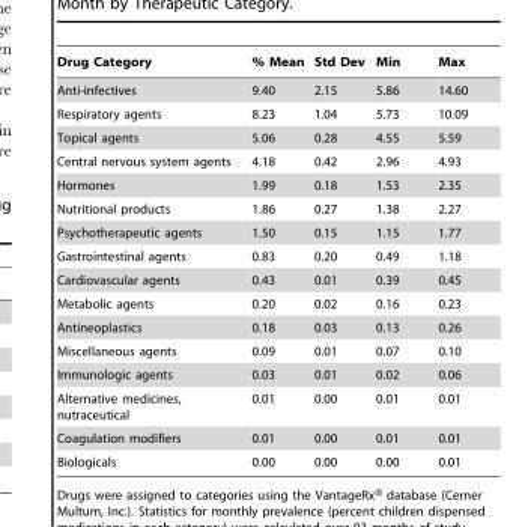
<table><thead><tr><td>Drug Category</td><td>% Mean</td><td>Std Dev</td><td>Min</td><td>Max</td></tr></thead><tbody><tr><td>Anti-infectives</td><td>9.40</td><td>2.15</td><td>5.86</td><td>14.60</td></tr><tr><td>Respiratory agents</td><td>8.23</td><td>1.04</td><td>5.73</td><td>10.09</td></tr><tr><td>Topical agents</td><td>5.06</td><td>0.28</td><td>4.55</td><td>5.59</td></tr><tr><td>Central nervous system agents</td><td>4.18</td><td>0.42</td><td>2.96</td><td>4.93</td></tr><tr><td>Hormones</td><td>1.99</td><td>0.18</td><td>1.53</td><td>2.35</td></tr><tr><td>Nutritional products</td><td>1.86</td><td>0.27</td><td>1.38</td><td>2.27</td></tr><tr><td>Psychotherapeutic agents</td><td>1.50</td><td>0.15</td><td>1.15</td><td>1.77</td></tr><tr><td>Gastrointestinal agents</td><td>0.83</td><td>0.20</td><td>0.49</td><td>1.18</td></tr><tr><td>Cardiovascular agents</td><td>0.43</td><td>0.01</td><td>0.39</td><td>0.45</td></tr><tr><td>Metabolic agents</td><td>0.20</td><td>0.02</td><td>0.16</td><td>0.23</td></tr><tr><td>Antineoplastics</td><td>0.18</td><td>0.03</td><td>0.13</td><td>0.26</td></tr><tr><td>Miscellaneous agents</td><td>0.09</td><td>0.01</td><td>0.07</td><td>0.10</td></tr><tr><td>Immunologic agents</td><td>0.03</td><td>0.01</td><td>0.02</td><td>0.06</td></tr><tr><td>Alternative medicines, nutraceutical</td><td>0.01</td><td>0.00</td><td>0.01</td><td>0.01</td></tr><tr><td>Coagulation modifiers</td><td>0.01</td><td>0.00</td><td>0.01</td><td>0.01</td></tr><tr><td>Biologicals</td><td>0.00</td><td>0.00</td><td>0.00</td><td>0.01</td></tr></tbody></table>